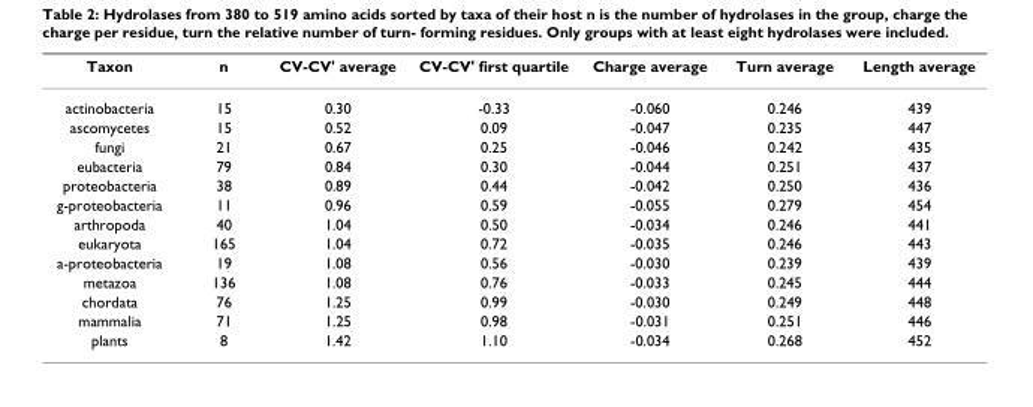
<table><thead><tr><td>Taxon</td><td>n</td><td>CV-CV&#x27; average</td><td>CV-CV&#x27; first quartile</td><td>Charge average</td><td>Turn average</td><td>Length average</td></tr></thead><tbody><tr><td>actinobacteria</td><td>15</td><td>0.30</td><td>-0.33</td><td>-0.060</td><td>0.246</td><td>439</td></tr><tr><td>ascomycetes</td><td>15</td><td>0.52</td><td>0.09</td><td>-0.047</td><td>0.235</td><td>447</td></tr><tr><td>fungi</td><td>21</td><td>0.67</td><td>0.25</td><td>-0.046</td><td>0.242</td><td>435</td></tr><tr><td>eubacteria</td><td>79</td><td>0.84</td><td>0.30</td><td>-0.044</td><td>0.251</td><td>437</td></tr><tr><td>proteobacteria</td><td>38</td><td>0.89</td><td>0.44</td><td>-0.042</td><td>0.250</td><td>436</td></tr><tr><td>g-proteobacteria</td><td>11</td><td>0.96</td><td>0.59</td><td>-0.055</td><td>0.279</td><td>454</td></tr><tr><td>arthropoda</td><td>40</td><td>1.04</td><td>0.50</td><td>-0.034</td><td>0.246</td><td>441</td></tr><tr><td>eukaryota</td><td>165</td><td>1.04</td><td>0.72</td><td>-0.035</td><td>0.246</td><td>443</td></tr><tr><td>a-proteobacteria</td><td>19</td><td>1.08</td><td>0.56</td><td>-0.030</td><td>0.239</td><td>439</td></tr><tr><td>metazoa</td><td>136</td><td>1.08</td><td>0.76</td><td>-0.033</td><td>0.245</td><td>444</td></tr><tr><td>chordata</td><td>76</td><td>1.25</td><td>0.99</td><td>-0.030</td><td>0.249</td><td>448</td></tr><tr><td>mammalia</td><td>71</td><td>1.25</td><td>0.98</td><td>-0.031</td><td>0.251</td><td>446</td></tr><tr><td>plants</td><td>8</td><td>1.42</td><td>1.10</td><td>-0.034</td><td>0.268</td><td>452</td></tr></tbody></table>